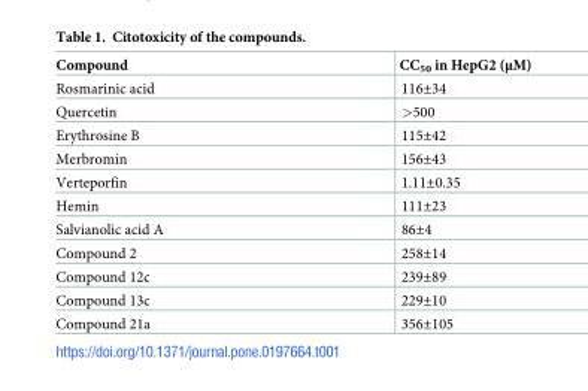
<table><thead><tr><td>Compound</td><td>CC<sub>50</sub> in HepG2 (μM)</td></tr></thead><tbody><tr><td>Rosmarinic acid</td><td>116±34</td></tr><tr><td>Quercetin</td><td>&gt;500</td></tr><tr><td>Erythrosine B</td><td>115±42</td></tr><tr><td>Merbromin</td><td>156±43</td></tr><tr><td>Verteporfin</td><td>1.11±0.35</td></tr><tr><td>Hemin</td><td>111±23</td></tr><tr><td>Salvianolic acid A</td><td>86±4</td></tr><tr><td>Compound 2</td><td>258±14</td></tr><tr><td>Compound 12c</td><td>239±89</td></tr><tr><td>Compound 13c</td><td>229±10</td></tr><tr><td>Compound 21a</td><td>356±105</td></tr></tbody></table>